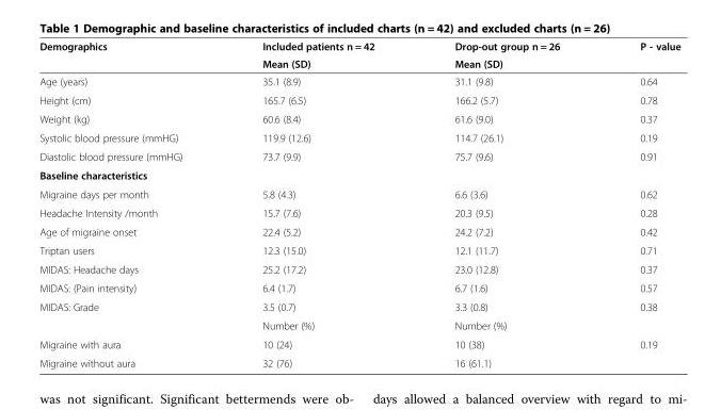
<table><thead><tr><td rowspan="2">Demographics</td><td rowspan="2">Included patients n = 42 Mean (SD)</td><td rowspan="2">Drop-out group n = 26 Mean (SD)</td><td rowspan="2">P - value</td></tr><tr></tr></thead><tbody><tr><td>Age (years)</td><td>35.1 (8.9)</td><td>31.1 (9.8)</td><td>0.64</td></tr><tr><td>Height (cm)</td><td>165.7 (6.5)</td><td>166.2 (5.7)</td><td>0.78</td></tr><tr><td>Weight (kg)</td><td>60.6 (8.4)</td><td>61.6 (9.0)</td><td>0.37</td></tr><tr><td>Systolic blood pressure (mmHG)</td><td>119.9 (12.6)</td><td>114.7 (26.1)</td><td>0.19</td></tr><tr><td>Diastolic blood pressure (mmHG)</td><td>73.7 (9.9)</td><td>75.7 (9.6)</td><td>0.91</td></tr><tr><td colspan="4">Baseline characteristics</td></tr><tr><td>Migraine days per month</td><td>5.8 (4.3)</td><td>6.6 (3.6)</td><td>0.62</td></tr><tr><td>Headache Intensity /month</td><td>15.7 (7.6)</td><td>20.3 (9.5)</td><td>0.28</td></tr><tr><td>Age of migraine onset</td><td>22.4 (5.2)</td><td>24.2 (7.2)</td><td>0.42</td></tr><tr><td>Triptan users</td><td>12.3 (15.0)</td><td>12.1 (11.7)</td><td>0.71</td></tr><tr><td>MIDAS: Headache days</td><td>25.2 (17.2)</td><td>23.0 (12.8)</td><td>0.37</td></tr><tr><td>MIDAS: (Pain intensity)</td><td>6.4 (1.7)</td><td>6.7 (1.6)</td><td>0.57</td></tr><tr><td rowspan="2">MIDAS: Grade</td><td>3.5 (0.7)</td><td>3.3 (0.8)</td><td>0.38</td></tr><tr><td>Number (%)</td><td>Number (%)</td><td></td></tr><tr><td>Migraine with aura</td><td>10 (24)</td><td>10 (38)</td><td>0.19</td></tr><tr><td>Migraine without aura</td><td>32 (76)</td><td>16 (61.1)</td><td></td></tr></tbody></table>